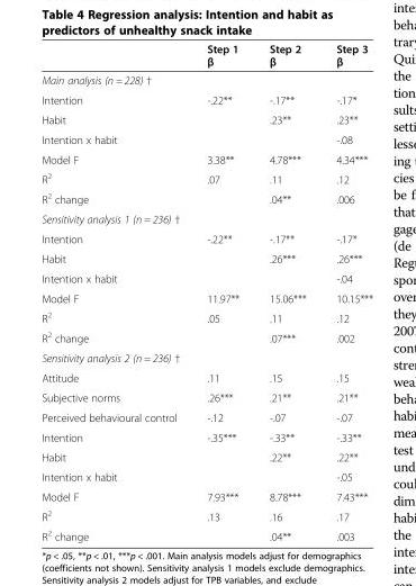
<table><thead><tr><td></td><td>Step 1 β</td><td>Step 2 β</td><td>Step 3 β</td></tr></thead><tbody><tr><td colspan="4">Main analysis (n = 228) †</td></tr><tr><td>Intention</td><td>-.22**</td><td>-.17**</td><td>-.17*</td></tr><tr><td>Habit</td><td></td><td>.23**</td><td>.23**</td></tr><tr><td>Intention x habit</td><td></td><td></td><td>-.08</td></tr><tr><td>Model F</td><td>3.38**</td><td>4.78***</td><td>4.34***</td></tr><tr><td>R<sup>2</sup></td><td>.07</td><td>.11</td><td>.12</td></tr><tr><td>R<sup>2</sup> change</td><td></td><td>.04**</td><td>.006</td></tr><tr><td colspan="4">Sensitivity analysis 1 (n = 236) †</td></tr><tr><td>Intention</td><td>-.22**</td><td>-.17**</td><td>-.17*</td></tr><tr><td>Habit</td><td></td><td>.26***</td><td>.26***</td></tr><tr><td>Intention x habit</td><td></td><td></td><td>-.04</td></tr><tr><td>Model F</td><td>11.97**</td><td>15.06***</td><td>10.15***</td></tr><tr><td>R<sup>2</sup></td><td>.05</td><td>.11</td><td>.12</td></tr><tr><td>R<sup>2</sup> change</td><td></td><td>.07***</td><td>.002</td></tr><tr><td colspan="4">Sensitivity analysis 2 (n = 236) †</td></tr><tr><td>Attitude</td><td>.11</td><td>.15</td><td>.15</td></tr><tr><td>Subjective norms</td><td>.26***</td><td>.21**</td><td>.21**</td></tr><tr><td>Perceived behavioural control</td><td>-.12</td><td>-.07</td><td>-.07</td></tr><tr><td>Intention</td><td>-.35***</td><td>-.33**</td><td>-.33**</td></tr><tr><td>Habit</td><td></td><td>.22**</td><td>.22**</td></tr><tr><td>Intention x habit</td><td></td><td></td><td>-.05</td></tr><tr><td>Model F</td><td>7.93***</td><td>8.78***</td><td>7.43***</td></tr><tr><td>R<sup>2</sup></td><td>.13</td><td>.16</td><td>.17</td></tr><tr><td>R<sup>2</sup> change</td><td></td><td>.04**</td><td>.003</td></tr></tbody></table>